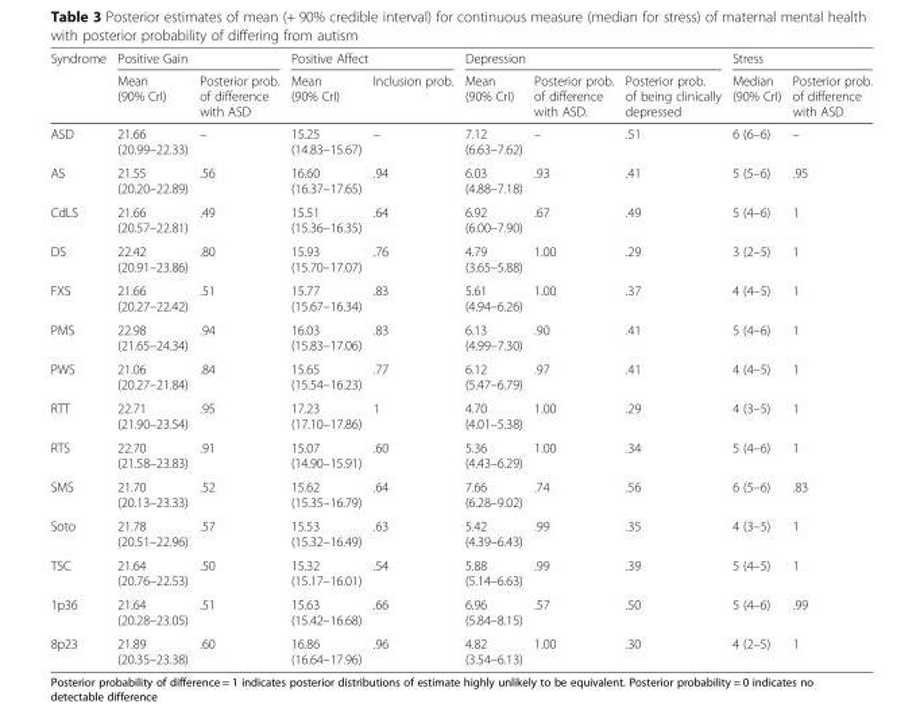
<table><thead><tr><td rowspan="2">Syndrome</td><td colspan="2">Positive Gain</td><td colspan="2">Positive Affect</td><td colspan="3">Depression</td><td colspan="2">Stress</td></tr><tr><td>Mean (90% CrI)</td><td>Posterior prob. of difference with ASD</td><td>Mean (90% CrI)</td><td>Inclusion prob.</td><td>Mean (90% CrI)</td><td>Posterior prob. of difference with ASD.</td><td>Posterior prob. of being clinically depressed</td><td>Median (90% CrI)</td><td>Posterior prob. of difference with ASD</td></tr></thead><tbody><tr><td>ASD</td><td>21.66 (20.99–22.33)</td><td>–</td><td>15.25 (14.83–15.67)</td><td>–</td><td>7.12 (6.63–7.62)</td><td>–</td><td>.51</td><td>6 (6–6)</td><td>–</td></tr><tr><td>AS</td><td>21.55 (20.20–22.89)</td><td>.56</td><td>16.60 (16.37–17.65)</td><td>.94</td><td>6.03 (4.88–7.18)</td><td>.93</td><td>.41</td><td>5 (5–6)</td><td>.95</td></tr><tr><td>CdLS</td><td>21.66 (20.57–22.81)</td><td>.49</td><td>15.51 (15.36–16.35)</td><td>.64</td><td>6.92 (6.00–7.90)</td><td>.67</td><td>.49</td><td>5 (4–6)</td><td>1</td></tr><tr><td>DS</td><td>22.42 (20.91–23.86)</td><td>.80</td><td>15.93 (15.70–17.07)</td><td>.76</td><td>4.79 (3.65–5.88)</td><td>1.00</td><td>.29</td><td>3 (2–5)</td><td>1</td></tr><tr><td>FXS</td><td>21.66 (20.27–22.42)</td><td>.51</td><td>15.77 (15.67–16.34)</td><td>.83</td><td>5.61 (4.94–6.26)</td><td>1.00</td><td>.37</td><td>4 (4–5)</td><td>1</td></tr><tr><td>PMS</td><td>22.98 (21.65–24.34)</td><td>.94</td><td>16.03 (15.83–17.06)</td><td>.83</td><td>6.13 (4.99–7.30)</td><td>.90</td><td>.41</td><td>5 (4–6)</td><td>1</td></tr><tr><td>PWS</td><td>21.06 (20.27–21.84)</td><td>.84</td><td>15.65 (15.54–16.23)</td><td>.77</td><td>6.12 (5.47–6.79)</td><td>.97</td><td>.41</td><td>4 (4–5)</td><td>1</td></tr><tr><td>RTT</td><td>22.71 (21.90–23.54)</td><td>.95</td><td>17.23 (17.10–17.86)</td><td>1</td><td>4.70 (4.01–5.38)</td><td>1.00</td><td>.29</td><td>4 (3–5)</td><td>1</td></tr><tr><td>RTS</td><td>22.70 (21.58–23.83)</td><td>.91</td><td>15.07 (14.90–15.91)</td><td>.60</td><td>5.36 (4.43–6.29)</td><td>1.00</td><td>.34</td><td>5 (4–6)</td><td>1</td></tr><tr><td>SMS</td><td>21.70 (20.13–23.33)</td><td>.52</td><td>15.62 (15.35–16.79)</td><td>.64</td><td>7.66 (6.28–9.02)</td><td>.74</td><td>.56</td><td>6 (5–6)</td><td>.83</td></tr><tr><td>Soto</td><td>21.78 (20.51–22.96)</td><td>.57</td><td>15.53 (15.32–16.49)</td><td>.63</td><td>5.42 (4.39–6.43)</td><td>.99</td><td>.35</td><td>4 (3–5)</td><td>1</td></tr><tr><td>TSC</td><td>21.64 (20.76–22.53)</td><td>.50</td><td>15.32 (15.17–16.01)</td><td>.54</td><td>5.88 (5.14–6.63)</td><td>.99</td><td>.39</td><td>5 (4–5)</td><td>1</td></tr><tr><td>1p36</td><td>21.64 (20.28–23.05)</td><td>.51</td><td>15.63 (15.42–16.68)</td><td>.66</td><td>6.96 (5.84–8.15)</td><td>.57</td><td>.50</td><td>5 (4–6)</td><td>.99</td></tr><tr><td>8p23</td><td>21.89 (20.35–23.38)</td><td>.60</td><td>16.86 (16.64–17.96)</td><td>.96</td><td>4.82 (3.54–6.13)</td><td>1.00</td><td>.30</td><td>4 (2–5)</td><td>1</td></tr></tbody></table>